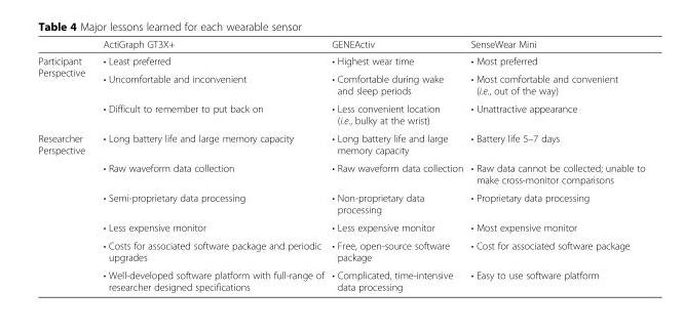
<table><thead><tr><td></td><td>ActiGraph GT3X+</td><td>GENEActiv</td><td>SenseWear Mini</td></tr></thead><tbody><tr><td rowspan="3">Participant Perspective</td><td>• Least preferred</td><td>• Highest wear time</td><td>• Most preferred</td></tr><tr><td>• Uncomfortable and inconvenient</td><td>• Comfortable during wake and sleep periods</td><td>• Most comfortable and convenient (i.e., out of the way)</td></tr><tr><td>• Difficult to remember to put back on</td><td>• Less convenient location (i.e., bulky at the wrist)</td><td>• Unattractive appearance</td></tr><tr><td rowspan="6">Researcher Perspective</td><td>• Long battery life and large memory capacity</td><td>• Long battery life and large memory capacity</td><td>• Battery life 5–7 days</td></tr><tr><td>• Raw waveform data collection</td><td>• Raw waveform data collection</td><td>• Raw data cannot be collected; unable to make cross-monitor comparisons</td></tr><tr><td>• Semi-proprietary data processing</td><td>• Non-proprietary data processing</td><td>• Proprietary data processing</td></tr><tr><td>• Less expensive monitor</td><td>• Less expensive monitor</td><td>• Most expensive monitor</td></tr><tr><td>• Costs for associated software package and periodic upgrades</td><td>• Free, open-source software package</td><td>• Cost for associated software package</td></tr><tr><td>• Well-developed software platform with full-range of researcher designed specifications</td><td>• Complicated, time-intensive data processing</td><td>• Easy to use software platform</td></tr></tbody></table>